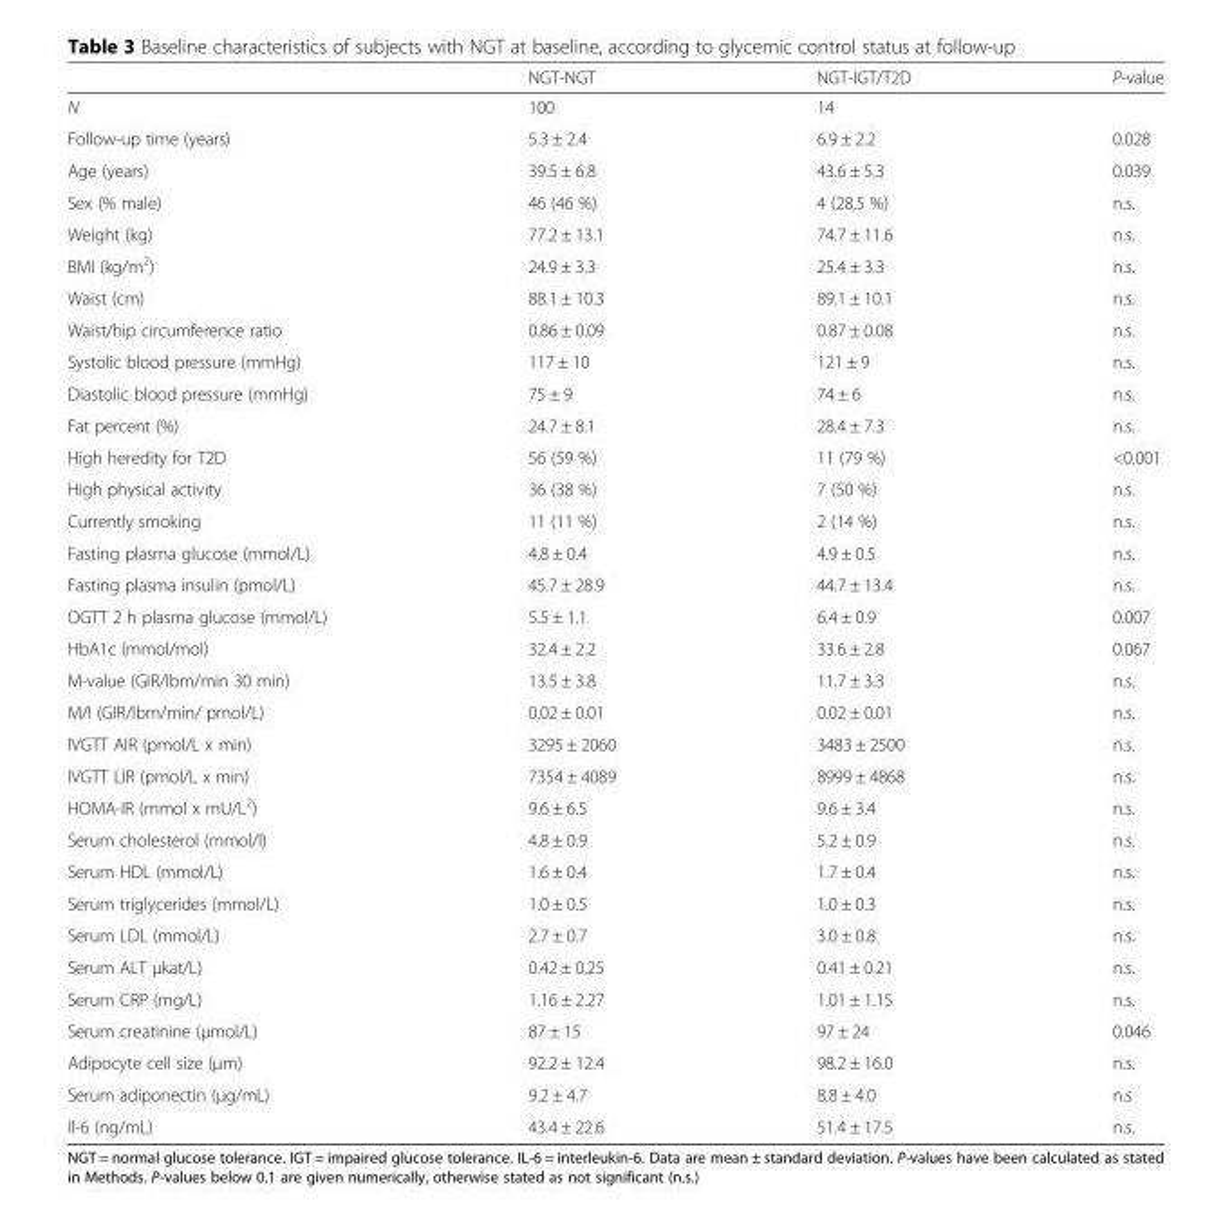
<table><thead><tr><td></td><td>NGT-NGT</td><td>NGT-IGT/T2D</td><td>P-value</td></tr></thead><tbody><tr><td>N</td><td>100</td><td>14</td><td></td></tr><tr><td>Follow-up time (years)</td><td>5.3 ± 2.4</td><td>6.9 ± 2.2</td><td>0.028</td></tr><tr><td>Age (years)</td><td>39.5 ± 6.8</td><td>43.6 ± 5.3</td><td>0.039</td></tr><tr><td>Sex (% male)</td><td>46 (46 %)</td><td>4 (28,5 %)</td><td>n.s.</td></tr><tr><td>Weight (kg)</td><td>77.2 ± 13.1</td><td>74.7 ± 11.6</td><td>n.s.</td></tr><tr><td>BMI (kg/m<sup>2</sup>)</td><td>24.9 ± 3.3</td><td>25.4 ± 3.3</td><td>n.s.</td></tr><tr><td>Waist (cm)</td><td>88.1 ± 10.3</td><td>89.1 ± 10.1</td><td>n.s.</td></tr><tr><td>Waist/hip circumference ratio</td><td>0.86 ± 0.09</td><td>0.87 ± 0.08</td><td>n.s.</td></tr><tr><td>Systolic blood pressure (mmHg)</td><td>117 ± 10</td><td>121 ± 9</td><td>n.s.</td></tr><tr><td>Diastolic blood pressure (mmHg)</td><td>75 ± 9</td><td>74 ± 6</td><td>n.s.</td></tr><tr><td>Fat percent (%)</td><td>24.7 ± 8.1</td><td>28.4 ± 7.3</td><td>n.s.</td></tr><tr><td>High heredity for T2D</td><td>56 (59 %)</td><td>11 (79 %)</td><td>&lt;0.001</td></tr><tr><td>High physical activity</td><td>36 (38 %)</td><td>7 (50 %)</td><td>n.s.</td></tr><tr><td>Currently smoking</td><td>11 (11 %)</td><td>2 (14 %)</td><td>n.s.</td></tr><tr><td>Fasting plasma glucose (mmol/L)</td><td>4.8 ± 0.4</td><td>4.9 ± 0.5</td><td>n.s.</td></tr><tr><td>Fasting plasma insulin (pmol/L)</td><td>45.7 ± 28.9</td><td>44.7 ± 13.4</td><td>n.s.</td></tr><tr><td>OGTT 2 h plasma glucose (mmol/L)</td><td>5.5 ± 1.1</td><td>6.4 ± 0.9</td><td>0.007</td></tr><tr><td>HbA1c (mmol/mol)</td><td>32.4 ± 2.2</td><td>33.6 ± 2.8</td><td>0.067</td></tr><tr><td>M-value (GIR/lbm/min 30 min)</td><td>13.5 ± 3.8</td><td>11.7 ± 3.3</td><td>n.s.</td></tr><tr><td>M/I (GIR/lbm/min/ pmol/L)</td><td>0.02 ± 0.01</td><td>0.02 ± 0.01</td><td>n.s.</td></tr><tr><td>IVGTT AIR (pmol/L x min)</td><td>3295 ± 2060</td><td>3483 ± 2500</td><td>n.s.</td></tr><tr><td>IVGTT LIR (pmol/L x min)</td><td>7354 ± 4089</td><td>8999 ± 4868</td><td>n.s.</td></tr><tr><td>HOMA-IR (mmol x mU/L<sup>2</sup>)</td><td>9.6 ± 6.5</td><td>9.6 ± 3.4</td><td>n.s.</td></tr><tr><td>Serum cholesterol (mmol/l)</td><td>4.8 ± 0.9</td><td>5.2 ± 0.9</td><td>n.s.</td></tr><tr><td>Serum HDL (mmol/L)</td><td>1.6 ± 0.4</td><td>1.7 ± 0.4</td><td>n.s.</td></tr><tr><td>Serum triglycerides (mmol/L)</td><td>1.0 ± 0.5</td><td>1.0 ± 0.3</td><td>n.s.</td></tr><tr><td>Serum LDL (mmol/L)</td><td>2.7 ± 0.7</td><td>3.0 ± 0.8</td><td>n.s.</td></tr><tr><td>Serum ALT μkat/L)</td><td>0.42 ± 0.25</td><td>0.41 ± 0.21</td><td>n.s.</td></tr><tr><td>Serum CRP (mg/L)</td><td>1.16 ± 2.27</td><td>1.01 ± 1.15</td><td>n.s.</td></tr><tr><td>Serum creatinine (μmol/L)</td><td>87 ± 15</td><td>97 ± 24</td><td>0.046</td></tr><tr><td>Adipocyte cell size (μm)</td><td>92.2 ± 12.4</td><td>98.2 ± 16.0</td><td>n.s.</td></tr><tr><td>Serum adiponectin (μg/mL)</td><td>9.2 ± 4.7</td><td>8.8 ± 4.0</td><td>n.s</td></tr><tr><td>Il-6 (ng/mL)</td><td>43.4 ± 22.6</td><td>51.4 ± 17.5</td><td>n.s.</td></tr></tbody></table>